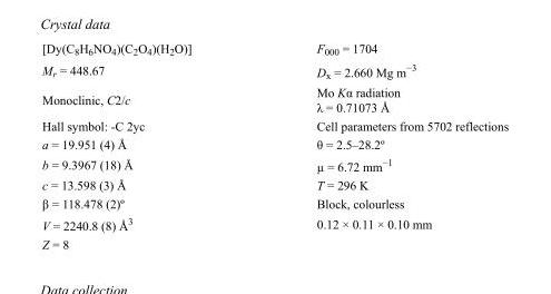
<table><tbody><tr><td>[Dy(C<sub>8</sub>H<sub>6</sub>NO<sub>4</sub>)(C<sub>2</sub>O<sub>4</sub>)(H<sub>2</sub>O)]</td><td>F000 = 1704</td></tr><tr><td>M<sub>r</sub> = 448.67</td><td>D<sub>x</sub> = 2.660 Mg m<sup>−3</sup></td></tr><tr><td>Monoclinic, C2/c</td><td>Mo Kα radiation λ = 0.71073 Å</td></tr><tr><td>Hall symbol: -C 2yc</td><td>Cell parameters from 5702 reflections</td></tr><tr><td>a = 19.951 (4) Å</td><td>θ = 2.5–28.2º</td></tr><tr><td>b = 9.3967 (18) Å</td><td>µ = 6.72 mm<sup>−1</sup></td></tr><tr><td>c = 13.598 (3) Å</td><td>T = 296 K</td></tr><tr><td>β = 118.478 (2)º</td><td>Block, colourless</td></tr><tr><td>V = 2240.8 (8) Å<sup>3</sup></td><td>0.12 × 0.11 × 0.10 mm</td></tr><tr><td>Z = 8</td><td></td></tr></tbody></table>